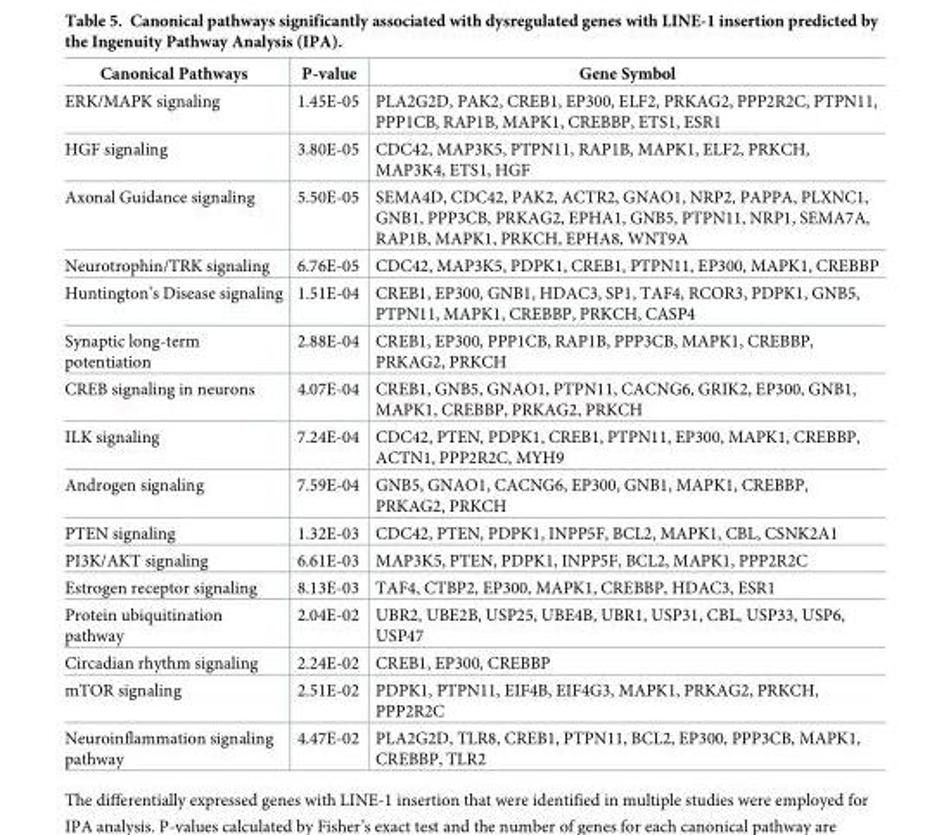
<table><thead><tr><td>Canonical Pathways</td><td>P-value</td><td>Gene Symbol</td></tr></thead><tbody><tr><td>ERK/MAPK signaling</td><td>1.45E-05</td><td>PLA2G2D, PAK2, CREB1, EP300, ELF2, PRKAG2, PPP2R2C, PTPN11, PPP1CB, RAP1B, MAPK1, CREBBP, ETS1, ESR1</td></tr><tr><td>HGF signaling</td><td>3.80E-05</td><td>CDC42, MAP3K5, PTPN11, RAP1B, MAPK1, ELF2, PRKCH, MAP3K4, ETS1, HGF</td></tr><tr><td>Axonal Guidance signaling</td><td>5.50E-05</td><td>SEMA4D, CDC42, PAK2, ACTR2, GNAO1, NRP2, PAPPA, PLXNC1, GNB1, PPP3CB, PRKAG2, EPHA1, GNB5, PTPN11, NRP1, SEMA7A, RAP1B, MAPK1, PRKCH, EPHA8, WNT9A</td></tr><tr><td>Neurotrophin/TRK signaling</td><td>6.76E-05</td><td>CDC42, MAP3K5, PDPK1, CREB1, PTPN11, EP300, MAPK1, CREBBP</td></tr><tr><td>Huntington’s Disease signaling</td><td>1.51E-04</td><td>CREB1, EP300, GNB1, HDAC3, SP1, TAF4, RCOR3, PDPK1, GNB5, PTPN11, MAPK1, CREBBP, PRKCH, CASP4</td></tr><tr><td>Synaptic long-term potentiation</td><td>2.88E-04</td><td>CREB1, EP300, PPP1CB, RAP1B, PPP3CB, MAPK1, CREBBP, PRKAG2, PRKCH</td></tr><tr><td>CREB signaling in neurons</td><td>4.07E-04</td><td>CREB1, GNB5, GNAO1, PTPN11, CACNG6, GRIK2, EP300, GNB1, MAPK1, CREBBP, PRKAG2, PRKCH</td></tr><tr><td>ILK signaling</td><td>7.24E-04</td><td>CDC42, PTEN, PDPK1, CREB1, PTPN11, EP300, MAPK1, CREBBP, ACTN1, PPP2R2C, MYH9</td></tr><tr><td>Androgen signaling</td><td>7.59E-04</td><td>GNB5, GNAO1, CACNG6, EP300, GNB1, MAPK1, CREBBP, PRKAG2, PRKCH</td></tr><tr><td>PTEN signaling</td><td>1.32E-03</td><td>CDC42, PTEN, PDPK1, INPP5F, BCL2, MAPK1, CBL, CSNK2A1</td></tr><tr><td>PI3K/AKT signaling</td><td>6.61E-03</td><td>MAP3K5, PTEN, PDPK1, INPP5F, BCL2, MAPK1, PPP2R2C</td></tr><tr><td>Estrogen receptor signaling</td><td>8.13E-03</td><td>TAF4, CTBP2, EP300, MAPK1, CREBBP, HDAC3, ESR1</td></tr><tr><td>Protein ubiquitination pathway</td><td>2.04E-02</td><td>UBR2, UBE2B, USP25, UBE4B, UBR1, USP31, CBL, USP33, USP6, USP47</td></tr><tr><td>Circadian rhythm signaling</td><td>2.24E-02</td><td>CREB1, EP300, CREBBP</td></tr><tr><td>mTOR signaling</td><td>2.51E-02</td><td>PDPK1, PTPN11, EIF4B, EIF4G3, MAPK1, PRKAG2, PRKCH, PPP2R2C</td></tr><tr><td>Neuroinflammation signaling pathway</td><td>4.47E-02</td><td>PLA2G2D, TLR8, CREB1, PTPN11, BCL2, EP300, PPP3CB, MAPK1, CREBBP, TLR2</td></tr></tbody></table>